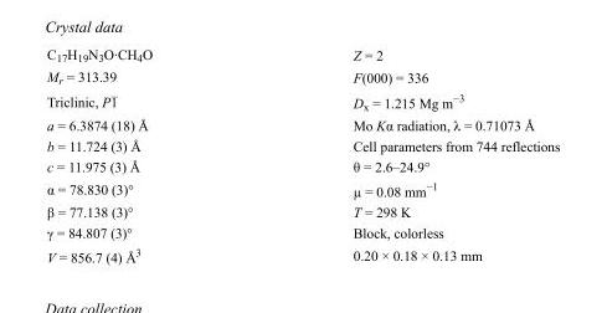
<table><tbody><tr><td>C<sub>17</sub>H<sub>19</sub>N<sub>3</sub>O·CH<sub>4</sub>O</td><td>Z = 2</td></tr><tr><td>M<sub>r</sub> = 313.39</td><td>F(000) = 336</td></tr><tr><td>Triclinic, P1</td><td>D<sub>x</sub> = 1.215 Mg m<sup>−3</sup></td></tr><tr><td>a = 6.3874 (18) Å</td><td>Mo Kα radiation, λ = 0.71073 Å</td></tr><tr><td>b = 11.724 (3) Å</td><td>Cell parameters from 744 reflections</td></tr><tr><td>c = 11.975 (3) Å</td><td>θ = 2.6–24.9°</td></tr><tr><td>α = 78.830 (3)°</td><td>µ = 0.08 mm<sup>−1</sup></td></tr><tr><td>β = 77.138 (3)°</td><td>T = 298 K</td></tr><tr><td>γ = 84.807 (3)°</td><td>Block, colorless</td></tr><tr><td>V = 856.7 (4) Å<sup>3</sup></td><td>0.20 × 0.18 × 0.13 mm</td></tr></tbody></table>